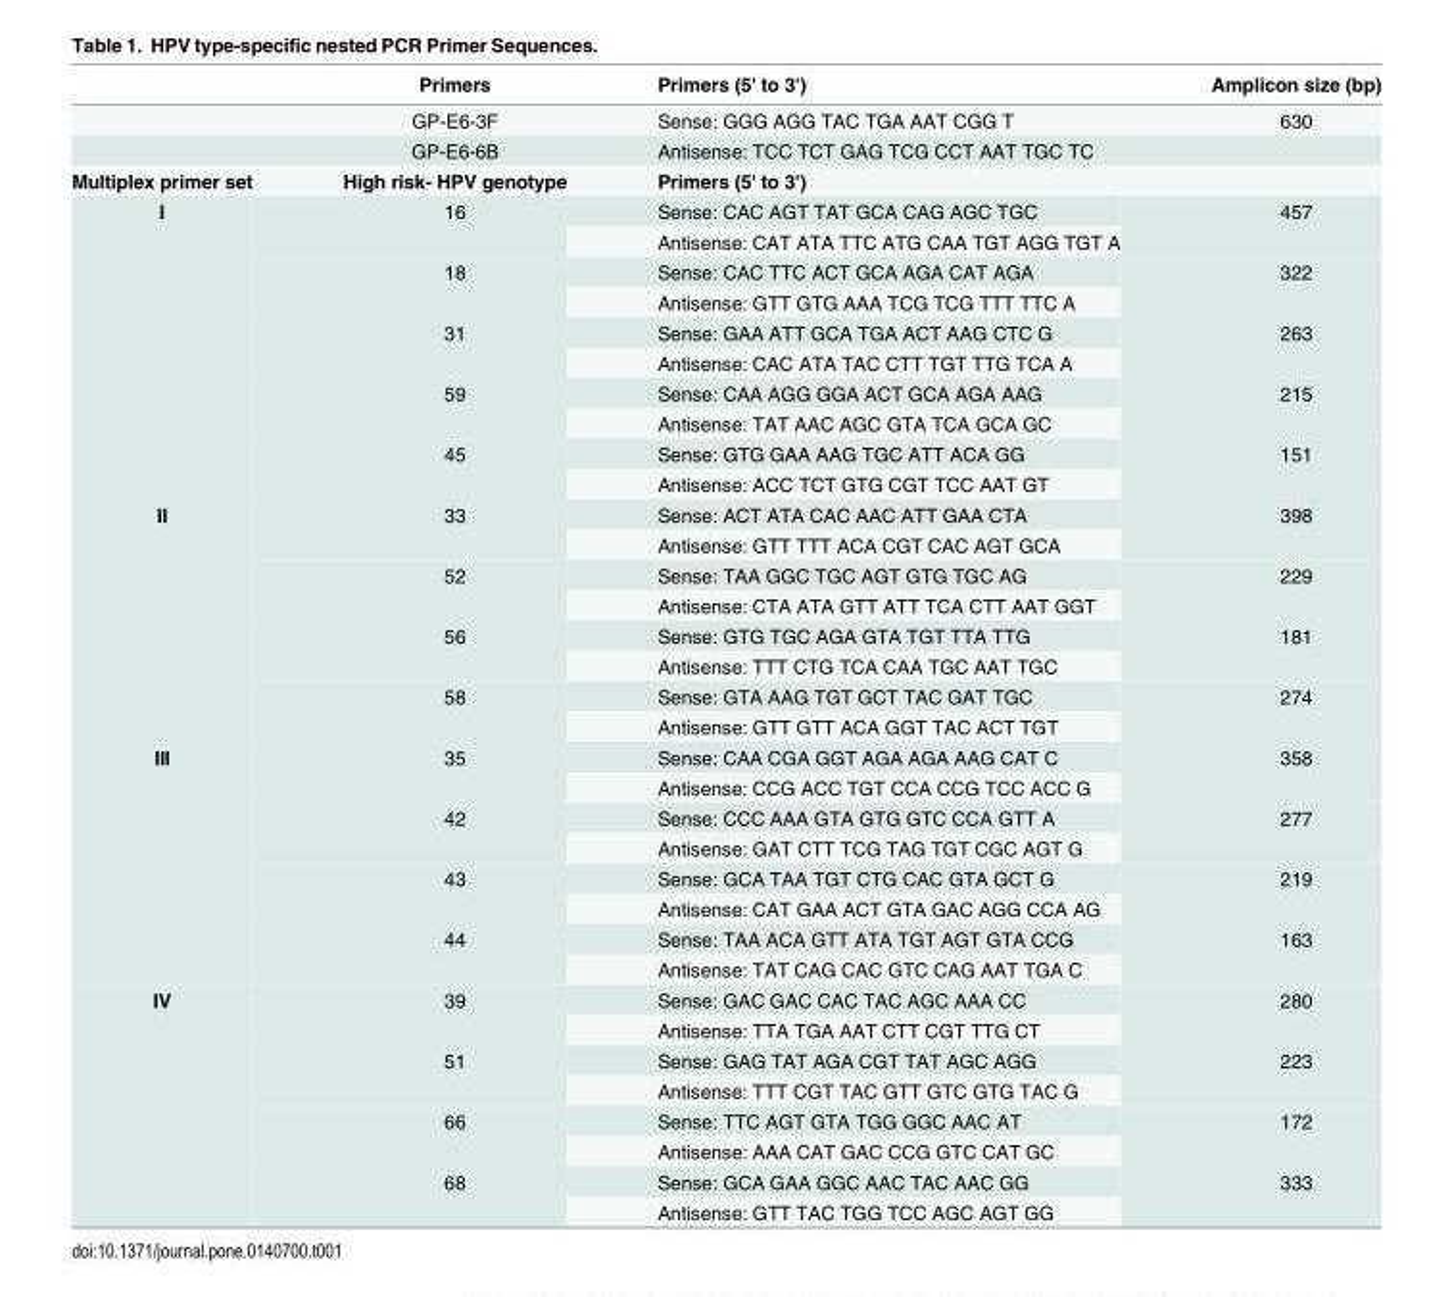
<table><thead><tr><td></td><td>Primers</td><td>Primers (5&#x27; to 3&#x27;)</td><td>Amplicon size (bp)</td></tr></thead><tbody><tr><td></td><td>GP-E6-3F</td><td>Sense: GGG AGG TAC TGA AAT CGG T</td><td>630</td></tr><tr><td></td><td>GP-E6-6B</td><td>Antisense: TCC TCT GAG TCG CCT AAT TGC TC</td><td></td></tr><tr><td>Multiplex primer set</td><td>High risk- HPV genotype</td><td>Primers (5&#x27; to 3&#x27;)</td><td></td></tr><tr><td rowspan="10">I</td><td rowspan="2">16</td><td>Sense: CAC AGT TAT GCA CAG AGC TGC</td><td rowspan="2">457</td></tr><tr><td>Antisense: CAT ATA TTC ATG CAA TGT AGG TGT A</td></tr><tr><td rowspan="2">18</td><td>Sense: CAC TTC ACT GCA AGA CAT AGA</td><td rowspan="2">322</td></tr><tr><td>Antisense: GTT GTG AAA TCG TCG TTT TTC A</td></tr><tr><td rowspan="2">31</td><td>Sense: GAA ATT GCA TGA ACT AAG CTC G</td><td rowspan="2">263</td></tr><tr><td>Antisense: CAC ATA TAC CTT TGT TTG TCA A</td></tr><tr><td rowspan="2">59</td><td>Sense: CAA AGG GGA ACT GCA AGA AAG</td><td rowspan="2">215</td></tr><tr><td>Antisense: TAT AAC AGC GTA TCA GCA GC</td></tr><tr><td rowspan="2">45</td><td>Sense: GTG GAA AAG TGC ATT ACA GG</td><td rowspan="2">151</td></tr><tr><td>Antisense: ACC TCT GTG CGT TCC AAT GT</td></tr><tr><td rowspan="8">II</td><td rowspan="2">33</td><td>Sense: ACT ATA CAC AAC ATT GAA CTA</td><td rowspan="2">398</td></tr><tr><td>Antisense: GTT TTT ACA CGT CAC AGT GCA</td></tr><tr><td rowspan="2">52</td><td>Sense: TAA GGC TGC AGT GTG TGC AG</td><td rowspan="2">229</td></tr><tr><td>Antisense: CTA ATA GTT ATT TCA CTT AAT GGT</td></tr><tr><td rowspan="2">56</td><td>Sense: GTG TGC AGA GTA TGT TTA TTG</td><td rowspan="2">181</td></tr><tr><td>Antisense: TTT CTG TCA CAA TGC AAT TGC</td></tr><tr><td rowspan="2">58</td><td>Sense: GTA AAG TGT GCT TAC GAT TGC</td><td rowspan="2">274</td></tr><tr><td>Antisense: GTT GTT ACA GGT TAC ACT TGT</td></tr><tr><td rowspan="8">III</td><td rowspan="2">35</td><td>Sense: CAA CGA GGT AGA AGA AAG CAT C</td><td rowspan="2">358</td></tr><tr><td>Antisense: CCG ACC TGT CCA CCG TCC ACC G</td></tr><tr><td rowspan="2">42</td><td>Sense: CCC AAA GTA GTG GTC CCA GTT A</td><td rowspan="2">277</td></tr><tr><td>Antisense: GAT CTT TCG TAG TGT CGC AGT G</td></tr><tr><td rowspan="2">43</td><td>Sense: GCA TAA TGT CTG CAC GTA GCT G</td><td rowspan="2">219</td></tr><tr><td>Antisense: CAT GAA ACT GTA GAC AGG CCA AG</td></tr><tr><td rowspan="2">44</td><td>Sense: TAA ACA GTT ATA TGT AGT GTA CCG</td><td rowspan="2">163</td></tr><tr><td>Antisense: TAT CAG CAC GTC CAG AAT TGA C</td></tr><tr><td rowspan="8">IV</td><td rowspan="2">39</td><td>Sense: GAC GAC CAC TAC AGC AAA CC</td><td rowspan="2">280</td></tr><tr><td>Antisense: TTA TGA AAT CTT CGT TTG CT</td></tr><tr><td rowspan="2">51</td><td>Sense: GAG TAT AGA CGT TAT AGC AGG</td><td rowspan="2">223</td></tr><tr><td>Antisense: TTT CGT TAC GTT GTC GTG TAC G</td></tr><tr><td rowspan="2">66</td><td>Sense: TTC AGT GTA TGG GGC AAC AT</td><td rowspan="2">172</td></tr><tr><td>Antisense: AAA CAT GAC CCG GTC CAT GC</td></tr><tr><td rowspan="2">68</td><td>Sense: GCA GAA GGC AAC TAC AAC GG</td><td rowspan="2">333</td></tr><tr><td>Antisense: GTT TAC TGG TCC AGC AGT GG</td></tr></tbody></table>